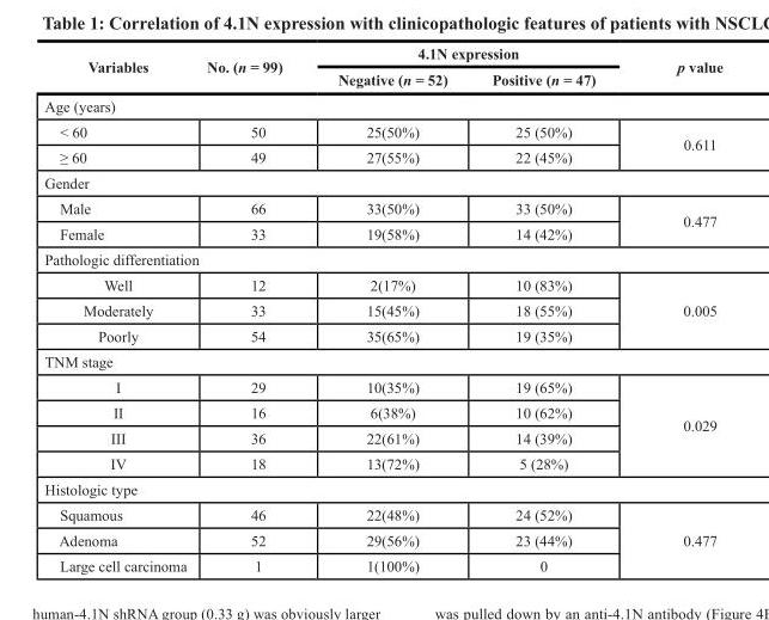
<table><thead><tr><td rowspan="2">Variables</td><td rowspan="2">No. (n = 99)</td><td colspan="2">4.1N expression</td><td rowspan="2">p value</td></tr><tr><td>Negative (n = 52)</td><td>Positive (n = 47)</td></tr></thead><tbody><tr><td colspan="5">Age (years)</td></tr><tr><td>&lt; 60</td><td>50</td><td>25(50%)</td><td>25 (50%)</td><td rowspan="2">0.611</td></tr><tr><td>≥ 60</td><td>49</td><td>27(55%)</td><td>22 (45%)</td></tr><tr><td colspan="5">Gender</td></tr><tr><td>Male</td><td>66</td><td>33(50%)</td><td>33 (50%)</td><td rowspan="2">0.477</td></tr><tr><td>Female</td><td>33</td><td>19(58%)</td><td>14 (42%)</td></tr><tr><td colspan="5">Pathologic differentiation</td></tr><tr><td>Well</td><td>12</td><td>2(17%)</td><td>10 (83%)</td><td rowspan="3">0.005</td></tr><tr><td>Moderately</td><td>33</td><td>15(45%)</td><td>18 (55%)</td></tr><tr><td>Poorly</td><td>54</td><td>35(65%)</td><td>19 (35%)</td></tr><tr><td colspan="5">TNM stage</td></tr><tr><td>I</td><td>29</td><td>10(35%)</td><td>19 (65%)</td><td rowspan="4">0.029</td></tr><tr><td>II</td><td>16</td><td>6(38%)</td><td>10 (62%)</td></tr><tr><td>III</td><td>36</td><td>22(61%)</td><td>14 (39%)</td></tr><tr><td>IV</td><td>18</td><td>13(72%)</td><td>5 (28%)</td></tr><tr><td colspan="5">Histologic type</td></tr><tr><td>Squamous</td><td>46</td><td>22(48%)</td><td>24 (52%)</td><td rowspan="3">0.477</td></tr><tr><td>Adenoma</td><td>52</td><td>29(56%)</td><td>23 (44%)</td></tr><tr><td>Large cell carcinoma</td><td>1</td><td>1(100%)</td><td>0</td></tr></tbody></table>